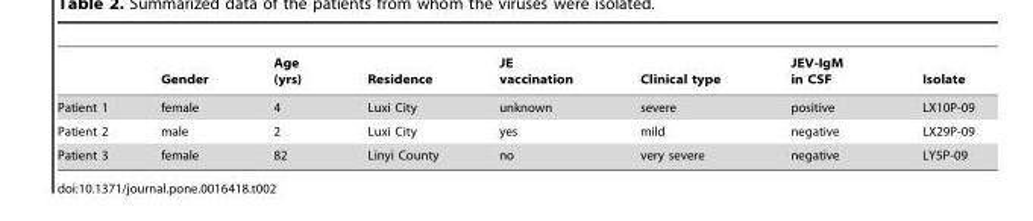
<table><thead><tr><td></td><td>Gender</td><td>Age (yrs)</td><td>Residence</td><td>JE vaccination</td><td>Clinical type</td><td>JEV-IgM in CSF</td><td>Isolate</td></tr></thead><tbody><tr><td>Patient 1</td><td>female</td><td>4</td><td>Luxi City</td><td>unknown</td><td>severe</td><td>positive</td><td>LX10P-09</td></tr><tr><td>Patient 2</td><td>male</td><td>2</td><td>Luxi City</td><td>yes</td><td>mild</td><td>negative</td><td>LX29P-09</td></tr><tr><td>Patient 3</td><td>female</td><td>82</td><td>Linyi County</td><td>no</td><td>very severe</td><td>negative</td><td>LY5P-09</td></tr></tbody></table>